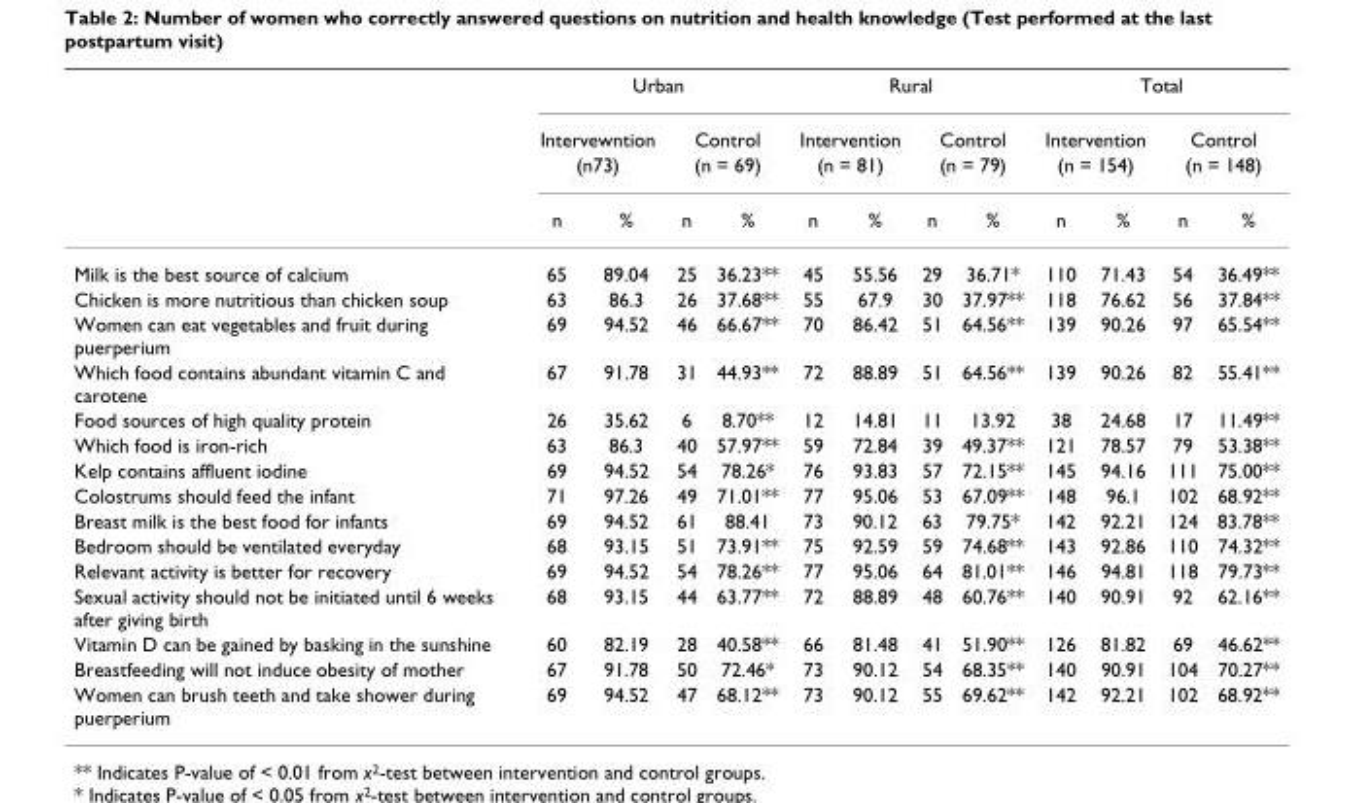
<table><thead><tr><td rowspan="4"></td><td colspan="4">Urban</td><td colspan="4">Rural</td><td colspan="4">Total</td></tr><tr><td rowspan="2" colspan="2">Intervewntion (n73)</td><td rowspan="2" colspan="2">Control (n = 69)</td><td rowspan="2" colspan="2">Intervention (n = 81)</td><td rowspan="2" colspan="2">Control (n = 79)</td><td rowspan="2" colspan="2">Intervention (n = 154)</td><td rowspan="2" colspan="2">Control (n = 148)</td></tr><tr></tr><tr><td>n</td><td>%</td><td>n</td><td>%</td><td>n</td><td>%</td><td>n</td><td>%</td><td>n</td><td>%</td><td>n</td><td>%</td></tr></thead><tbody><tr><td>Milk is the best source of calcium</td><td>65</td><td>89.04</td><td>25</td><td>36.23**</td><td>45</td><td>55.56</td><td>29</td><td>36.71*</td><td>110</td><td>71.43</td><td>54</td><td>36.49**</td></tr><tr><td>Chicken is more nutritious than chicken soup</td><td>63</td><td>86.3</td><td>26</td><td>37.68**</td><td>55</td><td>67.9</td><td>30</td><td>37.97**</td><td>118</td><td>76.62</td><td>56</td><td>37.84**</td></tr><tr><td>Women can eat vegetables and fruit during puerperium</td><td>69</td><td>94.52</td><td>46</td><td>66.67**</td><td>70</td><td>86.42</td><td>51</td><td>64.56**</td><td>139</td><td>90.26</td><td>97</td><td>65.54**</td></tr><tr><td>Which food contains abundant vitamin C and carotene</td><td>67</td><td>91.78</td><td>31</td><td>44.93**</td><td>72</td><td>88.89</td><td>51</td><td>64.56**</td><td>139</td><td>90.26</td><td>82</td><td>55.41**</td></tr><tr><td>Food sources of high quality protein</td><td>26</td><td>35.62</td><td>6</td><td>8.70**</td><td>12</td><td>14.81</td><td>11</td><td>13.92</td><td>38</td><td>24.68</td><td>17</td><td>11.49**</td></tr><tr><td>Which food is iron-rich</td><td>63</td><td>86.3</td><td>40</td><td>57.97**</td><td>59</td><td>72.84</td><td>39</td><td>49.37**</td><td>121</td><td>78.57</td><td>79</td><td>53.38**</td></tr><tr><td>Kelp contains affluent iodine</td><td>69</td><td>94.52</td><td>54</td><td>78.26*</td><td>76</td><td>93.83</td><td>57</td><td>72.15**</td><td>145</td><td>94.16</td><td>111</td><td>75.00**</td></tr><tr><td>Colostrums should feed the infant</td><td>71</td><td>97.26</td><td>49</td><td>71.01**</td><td>77</td><td>95.06</td><td>53</td><td>67.09**</td><td>148</td><td>96.1</td><td>102</td><td>68.92**</td></tr><tr><td>Breast milk is the best food for infants</td><td>69</td><td>94.52</td><td>61</td><td>88.41</td><td>73</td><td>90.12</td><td>63</td><td>79.75*</td><td>142</td><td>92.21</td><td>124</td><td>83.78**</td></tr><tr><td>Bedroom should be ventilated everyday</td><td>68</td><td>93.15</td><td>51</td><td>73.91**</td><td>75</td><td>92.59</td><td>59</td><td>74.68**</td><td>143</td><td>92.86</td><td>110</td><td>74.32**</td></tr><tr><td>Relevant activity is better for recovery</td><td>69</td><td>94.52</td><td>54</td><td>78.26**</td><td>77</td><td>95.06</td><td>64</td><td>81.01**</td><td>146</td><td>94.81</td><td>118</td><td>79.73**</td></tr><tr><td>Sexual activity should not be initiated until 6 weeks after giving birth</td><td>68</td><td>93.15</td><td>44</td><td>63.77**</td><td>72</td><td>88.89</td><td>48</td><td>60.76**</td><td>140</td><td>90.91</td><td>92</td><td>62.16**</td></tr><tr><td>Vitamin D can be gained by basking in the sunshine</td><td>60</td><td>82.19</td><td>28</td><td>40.58**</td><td>66</td><td>81.48</td><td>41</td><td>51.90**</td><td>126</td><td>81.82</td><td>69</td><td>46.62**</td></tr><tr><td>Breastfeeding will not induce obesity of mother</td><td>67</td><td>91.78</td><td>50</td><td>72.46*</td><td>73</td><td>90.12</td><td>54</td><td>68.35**</td><td>140</td><td>90.91</td><td>104</td><td>70.27**</td></tr><tr><td>Women can brush teeth and take shower during puerperium</td><td>69</td><td>94.52</td><td>47</td><td>68.12**</td><td>73</td><td>90.12</td><td>55</td><td>69.62**</td><td>142</td><td>92.21</td><td>102</td><td>68.92**</td></tr></tbody></table>